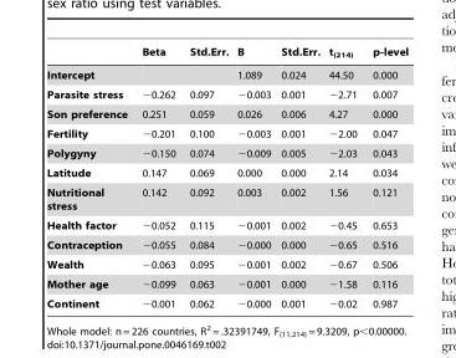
<table><thead><tr><td></td><td>Beta</td><td>Std.Err.</td><td>B</td><td>Std.Err.</td><td>t<sub>(214)</sub></td><td>p-level</td></tr></thead><tbody><tr><td>Intercept</td><td></td><td></td><td>1.089</td><td>0.024</td><td>44.50</td><td>0.000</td></tr><tr><td>Parasite stress</td><td>−0.262</td><td>0.097</td><td>−0.003</td><td>0.001</td><td>−2.71</td><td>0.007</td></tr><tr><td>Son preference</td><td>0.251</td><td>0.059</td><td>0.026</td><td>0.006</td><td>4.27</td><td>0.000</td></tr><tr><td>Fertility</td><td>−0.201</td><td>0.100</td><td>−0.003</td><td>0.001</td><td>−2.00</td><td>0.047</td></tr><tr><td>Polygyny</td><td>−0.150</td><td>0.074</td><td>−0.009</td><td>0.005</td><td>−2.03</td><td>0.043</td></tr><tr><td>Latitude</td><td>0.147</td><td>0.069</td><td>0.000</td><td>0.000</td><td>2.14</td><td>0.034</td></tr><tr><td>Nutritional stress</td><td>0.142</td><td>0.092</td><td>0.003</td><td>0.002</td><td>1.56</td><td>0.121</td></tr><tr><td>Health factor</td><td>−0.052</td><td>0.115</td><td>−0.001</td><td>0.002</td><td>−0.45</td><td>0.653</td></tr><tr><td>Contraception</td><td>−0.055</td><td>0.084</td><td>−0.000</td><td>0.000</td><td>−0.65</td><td>0.516</td></tr><tr><td>Wealth</td><td>−0.063</td><td>0.095</td><td>−0.001</td><td>0.002</td><td>−0.67</td><td>0.506</td></tr><tr><td>Mother age</td><td>−0.099</td><td>0.063</td><td>−0.001</td><td>0.000</td><td>−1.58</td><td>0.116</td></tr><tr><td>Continent</td><td>−0.001</td><td>0.062</td><td>−0.000</td><td>0.001</td><td>−0.02</td><td>0.987</td></tr></tbody></table>